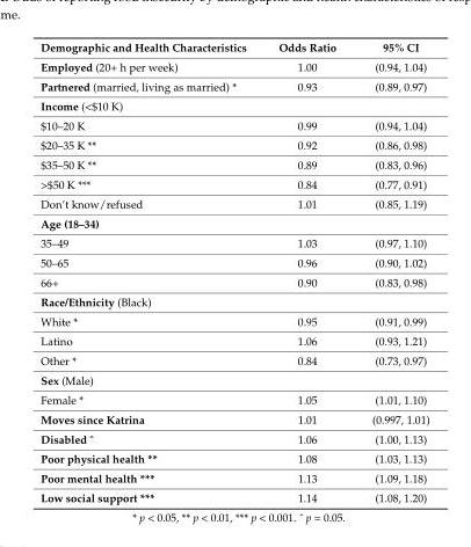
<table><thead><tr><td>Demographic and Health Characteristics</td><td>Odds Ratio</td><td>95% CI</td></tr></thead><tbody><tr><td>Employed (20+ h per week)</td><td>1.00</td><td>(0.94, 1.04)</td></tr><tr><td>Partnered (married, living as married) *</td><td>0.93</td><td>(0.89, 0.97)</td></tr><tr><td colspan="3">Income (&lt;$10 K)</td></tr><tr><td>$10–20 K</td><td>0.99</td><td>(0.94, 1.04)</td></tr><tr><td>$20–35 K **</td><td>0.92</td><td>(0.86, 0.98)</td></tr><tr><td>$35–50 K **</td><td>0.89</td><td>(0.83, 0.96)</td></tr><tr><td>&gt;$50 K ***</td><td>0.84</td><td>(0.77, 0.91)</td></tr><tr><td>Don’t know/refused</td><td>1.01</td><td>(0.85, 1.19)</td></tr><tr><td colspan="3">Age (18–34)</td></tr><tr><td>35–49</td><td>1.03</td><td>(0.97, 1.10)</td></tr><tr><td>50–65</td><td>0.96</td><td>(0.90, 1.02)</td></tr><tr><td>66+</td><td>0.90</td><td>(0.83, 0.98)</td></tr><tr><td colspan="3">Race/Ethnicity (Black)</td></tr><tr><td>White *</td><td>0.95</td><td>(0.91, 0.99)</td></tr><tr><td>Latino</td><td>1.06</td><td>(0.93, 1.21)</td></tr><tr><td>Other *</td><td>0.84</td><td>(0.73, 0.97)</td></tr><tr><td colspan="3">Sex (Male)</td></tr><tr><td>Female *</td><td>1.05</td><td>(1.01, 1.10)</td></tr><tr><td>Moves since Katrina</td><td>1.01</td><td>(0.997, 1.01)</td></tr><tr><td>Disabled ˆ</td><td>1.06</td><td>(1.00, 1.13)</td></tr><tr><td>Poor physical health **</td><td>1.08</td><td>(1.03, 1.13)</td></tr><tr><td>Poor mental health ***</td><td>1.13</td><td>(1.09, 1.18)</td></tr><tr><td>Low social support ***</td><td>1.14</td><td>(1.08, 1.20)</td></tr></tbody></table>